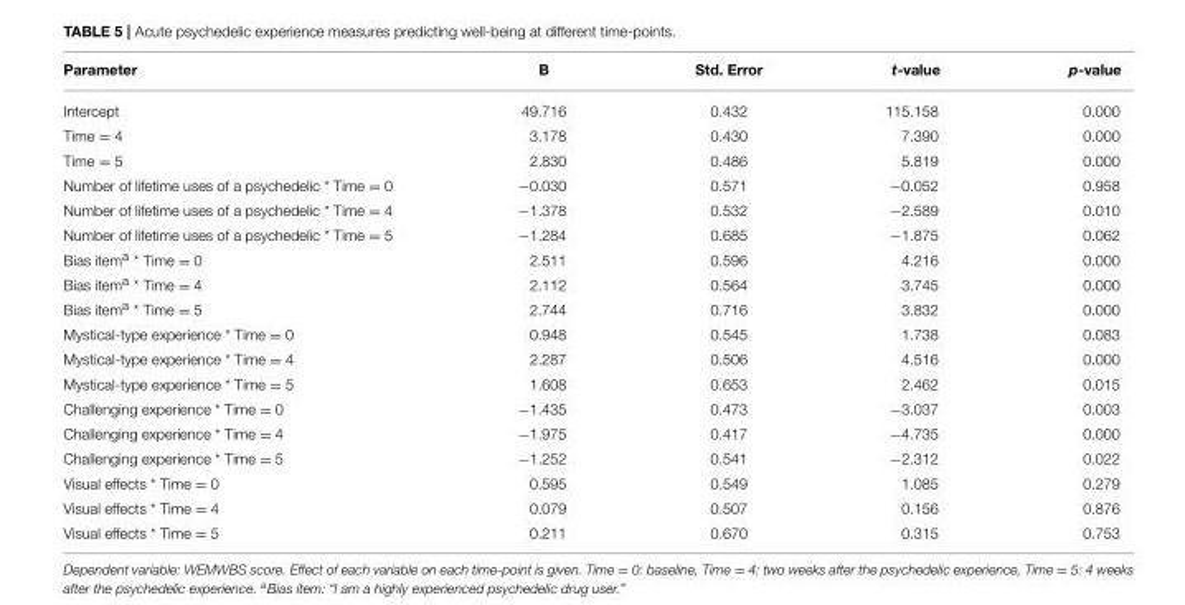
<table><thead><tr><td>Parameter</td><td>B</td><td>Std. Error</td><td>t-value</td><td>p-value</td></tr></thead><tbody><tr><td>Intercept</td><td>49.716</td><td>0.432</td><td>115.158</td><td>0.000</td></tr><tr><td>Time = 4</td><td>3.178</td><td>0.430</td><td>7.390</td><td>0.000</td></tr><tr><td>Time = 5</td><td>2.830</td><td>0.486</td><td>5.819</td><td>0.000</td></tr><tr><td>Number of lifetime uses of a psychedelic * Time = 0</td><td>−0.030</td><td>0.571</td><td>−0.052</td><td>0.958</td></tr><tr><td>Number of lifetime uses of a psychedelic * Time = 4</td><td>−1.378</td><td>0.532</td><td>−2.589</td><td>0.010</td></tr><tr><td>Number of lifetime uses of a psychedelic * Time = 5</td><td>−1.284</td><td>0.685</td><td>−1.875</td><td>0.062</td></tr><tr><td>Bias item<sup>a</sup> * Time = 0</td><td>2.511</td><td>0.596</td><td>4.216</td><td>0.000</td></tr><tr><td>Bias item<sup>a</sup> * Time = 4</td><td>2.112</td><td>0.564</td><td>3.745</td><td>0.000</td></tr><tr><td>Bias item<sup>a</sup> * Time = 5</td><td>2.744</td><td>0.716</td><td>3.832</td><td>0.000</td></tr><tr><td>Mystical-type experience * Time = 0</td><td>0.948</td><td>0.545</td><td>1.738</td><td>0.083</td></tr><tr><td>Mystical-type experience * Time = 4</td><td>2.287</td><td>0.506</td><td>4.516</td><td>0.000</td></tr><tr><td>Mystical-type experience * Time = 5</td><td>1.608</td><td>0.653</td><td>2.462</td><td>0.015</td></tr><tr><td>Challenging experience * Time = 0</td><td>−1.435</td><td>0.473</td><td>−3.037</td><td>0.003</td></tr><tr><td>Challenging experience * Time = 4</td><td>−1.975</td><td>0.417</td><td>−4.735</td><td>0.000</td></tr><tr><td>Challenging experience * Time = 5</td><td>−1.252</td><td>0.541</td><td>−2.312</td><td>0.022</td></tr><tr><td>Visual effects * Time = 0</td><td>0.595</td><td>0.549</td><td>1.085</td><td>0.279</td></tr><tr><td>Visual effects * Time = 4</td><td>0.079</td><td>0.507</td><td>0.156</td><td>0.876</td></tr><tr><td>Visual effects * Time = 5</td><td>0.211</td><td>0.670</td><td>0.315</td><td>0.753</td></tr></tbody></table>